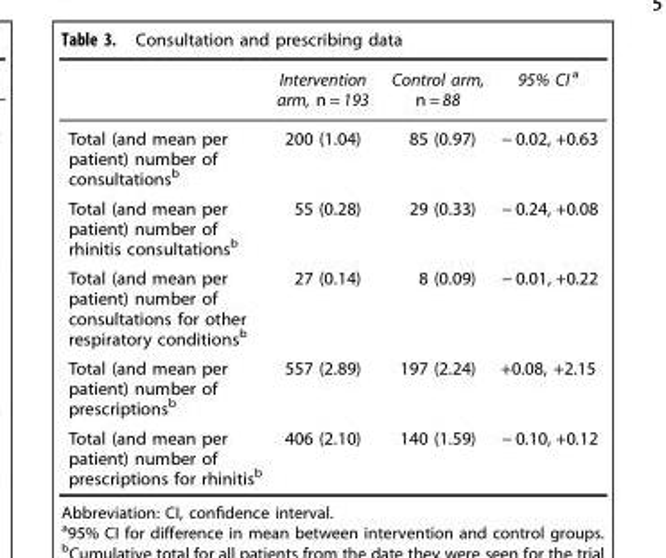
<table><thead><tr><td></td><td>Intervention arm, n = 193</td><td>Control arm, n = 88</td><td>95% CI a</td></tr></thead><tbody><tr><td>Total (and mean per patient) number of consultations<sup>b</sup></td><td>200 (1.04)</td><td>85 (0.97)</td><td>− 0.02, +0.63</td></tr><tr><td>Total (and mean per patient) number of rhinitis consultations<sup>b</sup></td><td>55 (0.28)</td><td>29 (0.33)</td><td>− 0.24, +0.08</td></tr><tr><td>Total (and mean per patient) number of consultations for other respiratory conditions<sup>b</sup></td><td>27 (0.14)</td><td>8 (0.09)</td><td>− 0.01, +0.22</td></tr><tr><td>Total (and mean per patient) number of prescriptions<sup>b</sup></td><td>557 (2.89)</td><td>197 (2.24)</td><td>+0.08, +2.15</td></tr><tr><td>Total (and mean per patient) number of prescriptions for rhinitis<sup>b</sup></td><td>406 (2.10)</td><td>140 (1.59)</td><td>− 0.10, +0.12</td></tr></tbody></table>